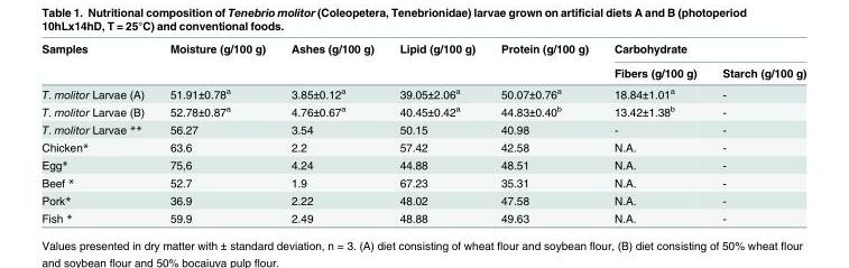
<table><thead><tr><td rowspan="2">Samples</td><td rowspan="2">Moisture (g/100 g)</td><td rowspan="2">Ashes (g/100 g)</td><td rowspan="2">Lipid (g/100 g)</td><td rowspan="2">Protein (g/100 g)</td><td colspan="2">Carbohydrate</td></tr><tr><td>Fibers (g/100 g)</td><td>Starch (g/100 g)</td></tr></thead><tbody><tr><td>T. molitor Larvae (A)</td><td>51.91±0.78<sup>a</sup></td><td>3.85±0.12<sup>a</sup></td><td>39.05±2.06<sup>a</sup></td><td>50.07±0.76<sup>a</sup></td><td>18.84±1.01<sup>a</sup></td><td>-</td></tr><tr><td>T. molitor Larvae (B)</td><td>52.78±0.87<sup>a</sup></td><td>4.76±0.67<sup>a</sup></td><td>40.45±0.42<sup>a</sup></td><td>44.83±0.40<sup>b</sup></td><td>13.42±1.38<sup>b</sup></td><td>-</td></tr><tr><td>T. molitor Larvae **</td><td>56.27</td><td>3.54</td><td>50.15</td><td>40.98</td><td>-</td><td>-</td></tr><tr><td>Chicken*</td><td>63.6</td><td>2.2</td><td>57.42</td><td>42.58</td><td>N.A.</td><td>-</td></tr><tr><td>Egg*</td><td>75,6</td><td>4.24</td><td>44.88</td><td>48.51</td><td>N.A.</td><td>-</td></tr><tr><td>Beef *</td><td>52.7</td><td>1.9</td><td>67.23</td><td>35.31</td><td>N.A.</td><td>-</td></tr><tr><td>Pork*</td><td>36.9</td><td>2.22</td><td>48.02</td><td>47.58</td><td>N.A.</td><td>-</td></tr><tr><td>Fish *</td><td>59.9</td><td>2.49</td><td>48.88</td><td>49.63</td><td>N.A.</td><td>-</td></tr></tbody></table>